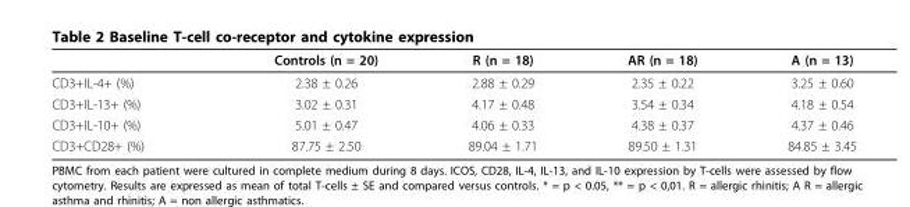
<table><thead><tr><td></td><td>Controls (n = 20)</td><td>R (n = 18)</td><td>AR (n = 18)</td><td>A (n = 13)</td></tr></thead><tbody><tr><td>CD3+IL-4+ (%)</td><td>2.38 ± 0.26</td><td>2.88 ± 0.29</td><td>2.35 ± 0.22</td><td>3.25 ± 0.60</td></tr><tr><td>CD3+IL-13+ (%)</td><td>3.02 ± 0.31</td><td>4.17 ± 0.48</td><td>3.54 ± 0.34</td><td>4.18 ± 0.54</td></tr><tr><td>CD3+IL-10+ (%)</td><td>5.01 ± 0.47</td><td>4.06 ± 0.33</td><td>4.38 ± 0.37</td><td>4.37 ± 0.46</td></tr><tr><td>CD3+CD28+ (%)</td><td>87.75 ± 2.50</td><td>89.04 ± 1.71</td><td>89.50 ± 1.31</td><td>84.85 ± 3.45</td></tr></tbody></table>